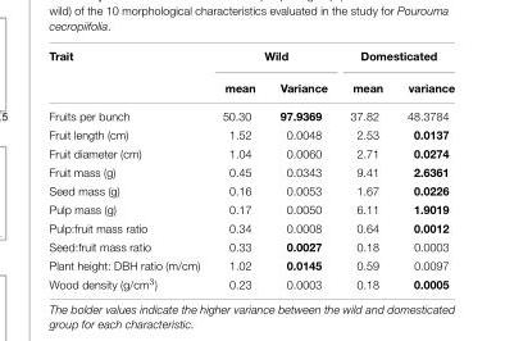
<table><thead><tr><td rowspan="2">Trait</td><td colspan="2">Wild</td><td colspan="2">Domesticated</td></tr><tr><td>mean</td><td>Variance</td><td>mean</td><td>variance</td></tr></thead><tbody><tr><td>Fruits per bunch</td><td>50.30</td><td>97.9369</td><td>37.82</td><td>48.3784</td></tr><tr><td>Fruit length (cm)</td><td>1.52</td><td>0.0048</td><td>2.53</td><td>0.0137</td></tr><tr><td>Fruit diameter (cm)</td><td>1.04</td><td>0.0060</td><td>2.71</td><td>0.0274</td></tr><tr><td>Fruit mass (g)</td><td>0.45</td><td>0.0343</td><td>9.41</td><td>2.6361</td></tr><tr><td>Seed mass (g)</td><td>0.16</td><td>0.0053</td><td>1.67</td><td>0.0226</td></tr><tr><td>Pulp mass (g)</td><td>0.17</td><td>0.0050</td><td>6.11</td><td>1.9019</td></tr><tr><td>Pulp:fruit mass ratio</td><td>0.34</td><td>0.0008</td><td>0.64</td><td>0.0012</td></tr><tr><td>Seed:fruit mass ratio</td><td>0.33</td><td>0.0027</td><td>0.18</td><td>0.0003</td></tr><tr><td>Plant height: DBH ratio (m/cm)</td><td>1.02</td><td>0.0145</td><td>0.59</td><td>0.0097</td></tr><tr><td>Wood density (g/cm<sup>3</sup>)</td><td>0.23</td><td>0.0003</td><td>0.18</td><td>0.0005</td></tr></tbody></table>